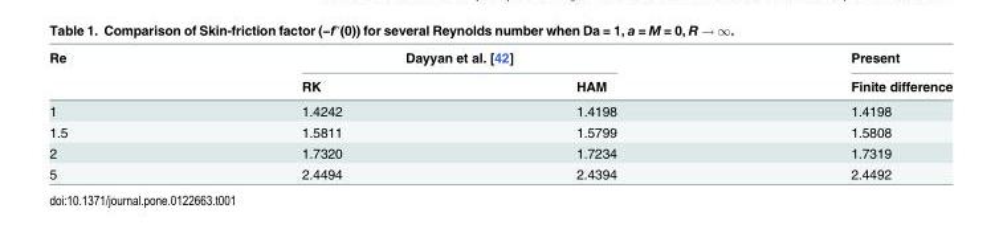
<table><thead><tr><td rowspan="2">Re</td><td colspan="2">Dayyan et al. [42]</td><td rowspan="2">Present Finite difference</td></tr><tr><td>RK</td><td>HAM</td></tr></thead><tbody><tr><td>1</td><td>1.4242</td><td>1.4198</td><td>1.4198</td></tr><tr><td>1.5</td><td>1.5811</td><td>1.5799</td><td>1.5808</td></tr><tr><td>2</td><td>1.7320</td><td>1.7234</td><td>1.7319</td></tr><tr><td>5</td><td>2.4494</td><td>2.4394</td><td>2.4492</td></tr></tbody></table>